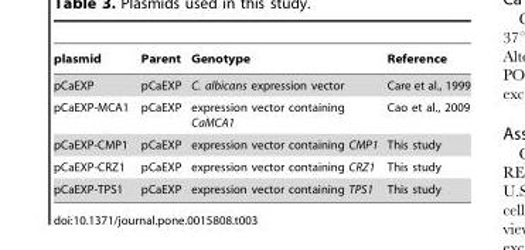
<table><thead><tr><td>plasmid</td><td>Parent</td><td>Genotype</td><td>Reference</td></tr></thead><tbody><tr><td>pCaEXP</td><td>pCaEXP</td><td>C. albicans expression vector</td><td>Care et al., 1999</td></tr><tr><td>pCaEXP-MCA1</td><td>pCaEXP</td><td>expression vector containing CaMCA1</td><td>Cao et al., 2009</td></tr><tr><td>pCaEXP-CMP1</td><td>pCaEXP</td><td>expression vector containing CMP1</td><td>This study</td></tr><tr><td>pCaEXP-CRZ1</td><td>pCaEXP</td><td>expression vector containing CRZ1</td><td>This study</td></tr><tr><td>pCaEXP-TPS1</td><td>pCaEXP</td><td>expression vector containing TPS1</td><td>This study</td></tr></tbody></table>